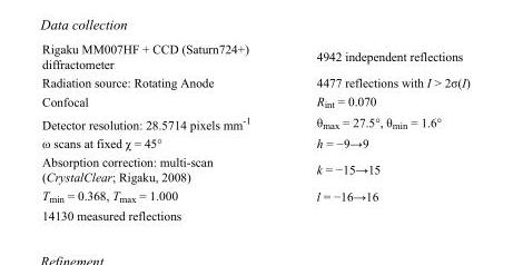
<table><tbody><tr><td>Rigaku MM007HF + CCD (Saturn724+) diffractometer</td><td>4942 independent reflections</td></tr><tr><td>Radiation source: Rotating Anode</td><td>4477 reflections with I &gt; 2σ(I)</td></tr><tr><td>Confocal</td><td>R<sub>int</sub> = 0.070</td></tr><tr><td>Detector resolution: 28.5714 pixels mm<sup>-1</sup></td><td>θ<sub>max</sub> = 27.5°, θ<sub>min</sub> = 1.6°</td></tr><tr><td>ω scans at fixed χ = 45°</td><td>h = −9→9</td></tr><tr><td>Absorption correction: multi-scan (CrystalClear; Rigaku, 2008)</td><td>k = −15→15</td></tr><tr><td>T<sub>min</sub> = 0.368, T<sub>max</sub> = 1.000</td><td>l = −16→16</td></tr><tr><td>14130 measured reflections</td><td></td></tr></tbody></table>